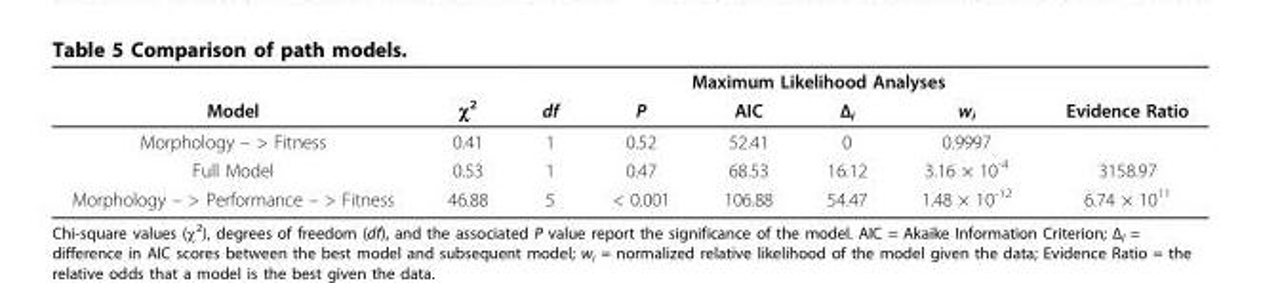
<table><thead><tr><td rowspan="2">Model</td><td colspan="7">Maximum Likelihood Analyses</td></tr><tr><td>χ<sup>2</sup></td><td>df</td><td>P</td><td>AIC</td><td>Δ<sub>i</sub></td><td>w<sub>i</sub></td><td>Evidence Ratio</td></tr></thead><tbody><tr><td>Morphology – &gt; Fitness</td><td>0.41</td><td>1</td><td>0.52</td><td>52.41</td><td>0</td><td>0.9997</td><td></td></tr><tr><td>Full Model</td><td>0.53</td><td>1</td><td>0.47</td><td>68.53</td><td>16.12</td><td>3.16 × 10<sup>-4</sup></td><td>3158.97</td></tr><tr><td>Morphology – &gt; Performance – &gt; Fitness</td><td>46.88</td><td>5</td><td>&lt; 0.001</td><td>106.88</td><td>54.47</td><td>1.48 × 10<sup>-12</sup></td><td>6.74 × 10<sup>11</sup></td></tr></tbody></table>